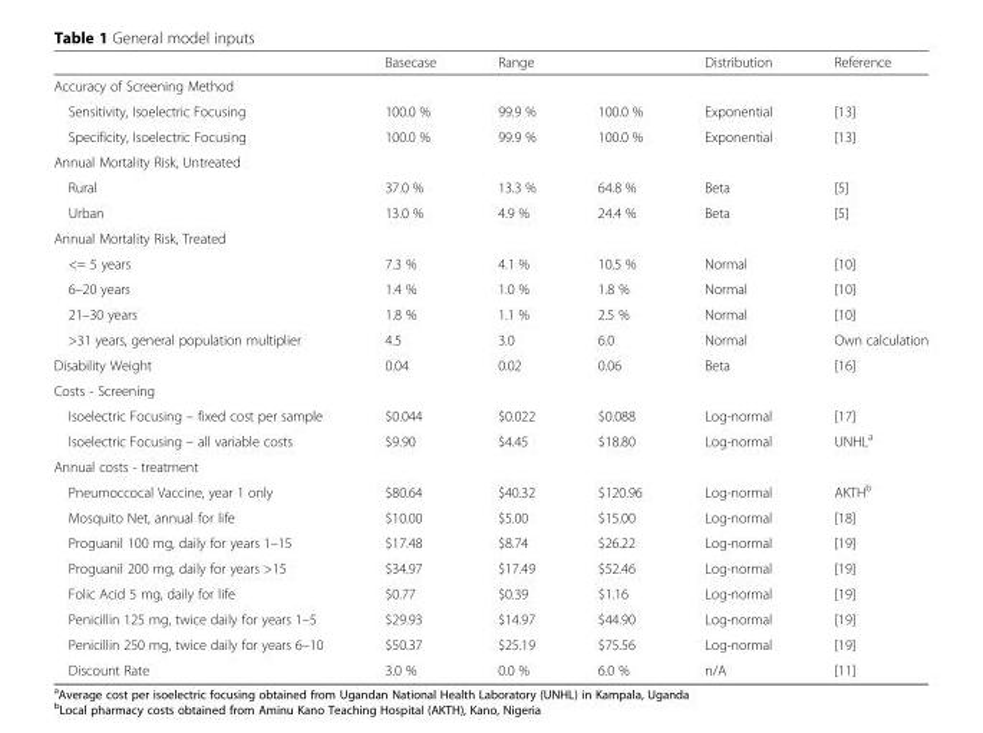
<table><thead><tr><td rowspan="2">Accuracy of Screening Method</td><td rowspan="2">Basecase</td><td colspan="2">Range</td><td rowspan="2">Distribution</td><td rowspan="2">Reference</td></tr><tr><td></td><td></td></tr></thead><tbody><tr><td>Sensitivity, Isoelectric Focusing</td><td>100.0 %</td><td>99.9 %</td><td>100.0 %</td><td>Exponential</td><td>[13]</td></tr><tr><td>Specificity, Isoelectric Focusing</td><td>100.0 %</td><td>99.9 %</td><td>100.0 %</td><td>Exponential</td><td>[13]</td></tr><tr><td colspan="6">Annual Mortality Risk, Untreated</td></tr><tr><td>Rural</td><td>37.0 %</td><td>13.3 %</td><td>64.8 %</td><td>Beta</td><td>[5]</td></tr><tr><td>Urban</td><td>13.0 %</td><td>4.9 %</td><td>24.4 %</td><td>Beta</td><td>[5]</td></tr><tr><td colspan="6">Annual Mortality Risk, Treated</td></tr><tr><td>&lt;= 5 years</td><td>7.3 %</td><td>4.1 %</td><td>10.5 %</td><td>Normal</td><td>[10]</td></tr><tr><td>6–20 years</td><td>1.4 %</td><td>1.0 %</td><td>1.8 %</td><td>Normal</td><td>[10]</td></tr><tr><td>21–30 years</td><td>1.8 %</td><td>1.1 %</td><td>2.5 %</td><td>Normal</td><td>[10]</td></tr><tr><td>&gt;31 years, general population multiplier</td><td>4.5</td><td>3.0</td><td>6.0</td><td>Normal</td><td>Own calculation</td></tr><tr><td>Disability Weight</td><td>0.04</td><td>0.02</td><td>0.06</td><td>Beta</td><td>[16]</td></tr><tr><td colspan="6">Costs - Screening</td></tr><tr><td>Isoelectric Focusing – fixed cost per sample</td><td>$0.044</td><td>$0.022</td><td>$0.088</td><td>Log-normal</td><td>[17]</td></tr><tr><td>Isoelectric Focusing – all variable costs</td><td>$9.90</td><td>$4.45</td><td>$18.80</td><td>Log-normal</td><td>UNHL<sup>a</sup></td></tr><tr><td colspan="6">Annual costs - treatment</td></tr><tr><td>Pneumoccocal Vaccine, year 1 only</td><td>$80.64</td><td>$40.32</td><td>$120.96</td><td>Log-normal</td><td>AKTH<sup>b</sup></td></tr><tr><td>Mosquito Net, annual for life</td><td>$10.00</td><td>$5.00</td><td>$15.00</td><td>Log-normal</td><td>[18]</td></tr><tr><td>Proguanil 100 mg, daily for years 1–15</td><td>$17.48</td><td>$8.74</td><td>$26.22</td><td>Log-normal</td><td>[19]</td></tr><tr><td>Proguanil 200 mg, daily for years &gt;15</td><td>$34.97</td><td>$17.49</td><td>$52.46</td><td>Log-normal</td><td>[19]</td></tr><tr><td>Folic Acid 5 mg, daily for life</td><td>$0.77</td><td>$0.39</td><td>$1.16</td><td>Log-normal</td><td>[19]</td></tr><tr><td>Penicillin 125 mg, twice daily for years 1–5</td><td>$29.93</td><td>$14.97</td><td>$44.90</td><td>Log-normal</td><td>[19]</td></tr><tr><td>Penicillin 250 mg, twice daily for years 6–10</td><td>$50.37</td><td>$25.19</td><td>$75.56</td><td>Log-normal</td><td>[19]</td></tr><tr><td>Discount Rate</td><td>3.0 %</td><td>0.0 %</td><td>6.0 %</td><td>n/A</td><td>[11]</td></tr></tbody></table>